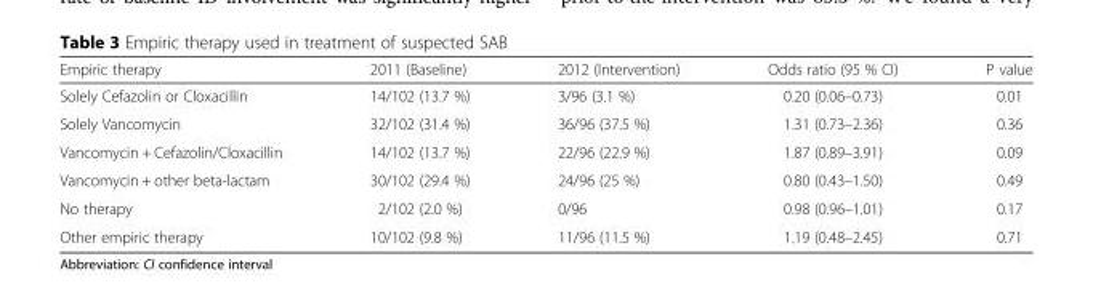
<table><thead><tr><td>Empiric therapy</td><td>2011 (Baseline)</td><td>2012 (Intervention)</td><td>Odds ratio (95 % CI)</td><td>P value</td></tr></thead><tbody><tr><td>Solely Cefazolin or Cloxacillin</td><td>14/102 (13.7 %)</td><td>3/96 (3.1 %)</td><td>0.20 (0.06–0.73)</td><td>0.01</td></tr><tr><td>Solely Vancomycin</td><td>32/102 (31.4 %)</td><td>36/96 (37.5 %)</td><td>1.31 (0.73–2.36)</td><td>0.36</td></tr><tr><td>Vancomycin + Cefazolin/Cloxacillin</td><td>14/102 (13.7 %)</td><td>22/96 (22.9 %)</td><td>1.87 (0.89–3.91)</td><td>0.09</td></tr><tr><td>Vancomycin + other beta-lactam</td><td>30/102 (29.4 %)</td><td>24/96 (25 %)</td><td>0.80 (0.43–1.50)</td><td>0.49</td></tr><tr><td>No therapy</td><td>2/102 (2.0 %)</td><td>0/96</td><td>0.98 (0.96–1.01)</td><td>0.17</td></tr><tr><td>Other empiric therapy</td><td>10/102 (9.8 %)</td><td>11/96 (11.5 %)</td><td>1.19 (0.48–2.45)</td><td>0.71</td></tr></tbody></table>